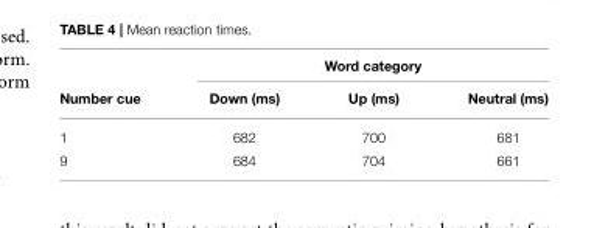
<table><thead><tr><td rowspan="2">Number cue</td><td colspan="3">Word category</td></tr><tr><td>Down (ms)</td><td>Up (ms)</td><td>Neutral (ms)</td></tr></thead><tbody><tr><td>1</td><td>682</td><td>700</td><td>681</td></tr><tr><td>9</td><td>684</td><td>704</td><td>661</td></tr></tbody></table>